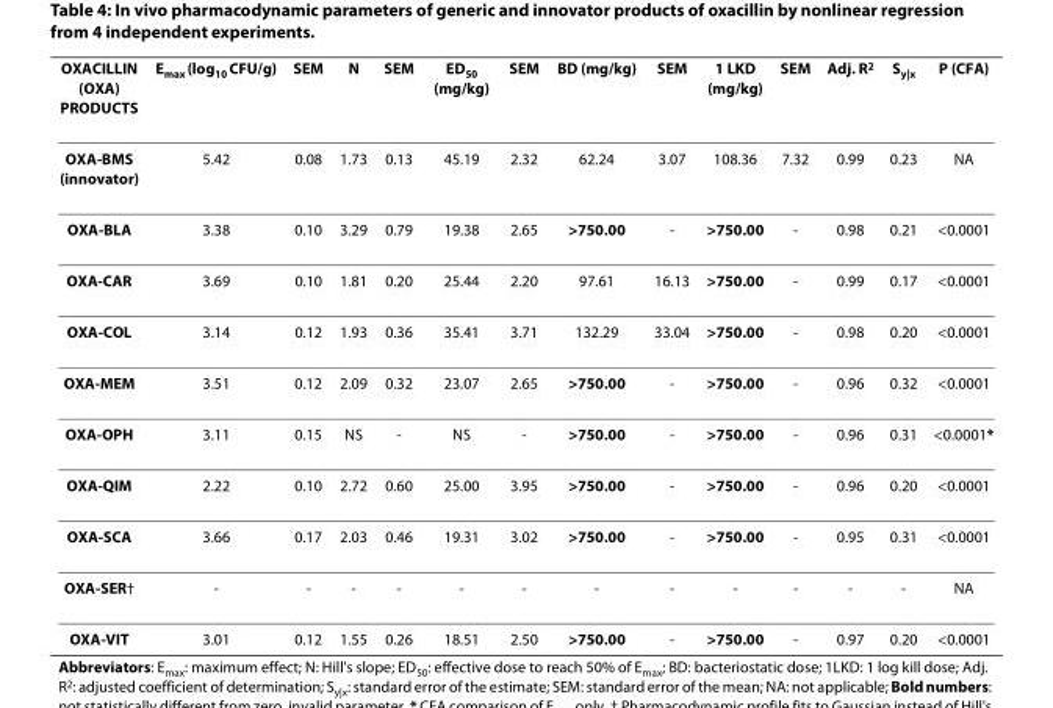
<table><thead><tr><td>OXACILLIN (OXA) PRODUCTS</td><td>E<sub>max</sub> (log<sub>10</sub> CFU/g)</td><td>SEM</td><td>N</td><td>SEM</td><td>ED<sub>50</sub> (mg/kg)</td><td>SEM</td><td>BD (mg/kg)</td><td>SEM</td><td>1 LKD (mg/kg)</td><td>SEM</td><td>Adj. R<sup>2</sup></td><td>S<sub>y|x</sub></td><td>P (CFA)</td></tr></thead><tbody><tr><td>OXA-BMS (innovator)</td><td>5.42</td><td>0.08</td><td>1.73</td><td>0.13</td><td>45.19</td><td>2.32</td><td>62.24</td><td>3.07</td><td>108.36</td><td>7.32</td><td>0.99</td><td>0.23</td><td>NA</td></tr><tr><td>OXA-BLA</td><td>3.38</td><td>0.10</td><td>3.29</td><td>0.79</td><td>19.38</td><td>2.65</td><td>&gt;750.00</td><td>-</td><td>&gt;750.00</td><td>-</td><td>0.98</td><td>0.21</td><td>&lt;0.0001</td></tr><tr><td>OXA-CAR</td><td>3.69</td><td>0.10</td><td>1.81</td><td>0.20</td><td>25.44</td><td>2.20</td><td>97.61</td><td>16.13</td><td>&gt;750.00</td><td>-</td><td>0.99</td><td>0.17</td><td>&lt;0.0001</td></tr><tr><td>OXA-COL</td><td>3.14</td><td>0.12</td><td>1.93</td><td>0.36</td><td>35.41</td><td>3.71</td><td>132.29</td><td>33.04</td><td>&gt;750.00</td><td>-</td><td>0.98</td><td>0.20</td><td>&lt;0.0001</td></tr><tr><td>OXA-MEM</td><td>3.51</td><td>0.12</td><td>2.09</td><td>0.32</td><td>23.07</td><td>2.65</td><td>&gt;750.00</td><td>-</td><td>&gt;750.00</td><td>-</td><td>0.96</td><td>0.32</td><td>&lt;0.0001</td></tr><tr><td>OXA-OPH</td><td>3.11</td><td>0.15</td><td>NS</td><td>-</td><td>NS</td><td>-</td><td>&gt;750.00</td><td>-</td><td>&gt;750.00</td><td>-</td><td>0.96</td><td>0.31</td><td>&lt;0.0001*</td></tr><tr><td>OXA-QIM</td><td>2.22</td><td>0.10</td><td>2.72</td><td>0.60</td><td>25.00</td><td>3.95</td><td>&gt;750.00</td><td>-</td><td>&gt;750.00</td><td>-</td><td>0.96</td><td>0.20</td><td>&lt;0.0001</td></tr><tr><td>OXA-SCA</td><td>3.66</td><td>0.17</td><td>2.03</td><td>0.46</td><td>19.31</td><td>3.02</td><td>&gt;750.00</td><td>-</td><td>&gt;750.00</td><td>-</td><td>0.95</td><td>0.31</td><td>&lt;0.0001</td></tr><tr><td>OXA-SER†</td><td>-</td><td>-</td><td>-</td><td>-</td><td>-</td><td>-</td><td>-</td><td>-</td><td>-</td><td>-</td><td>-</td><td>-</td><td>NA</td></tr><tr><td>OXA-VIT</td><td>3.01</td><td>0.12</td><td>1.55</td><td>0.26</td><td>18.51</td><td>2.50</td><td>&gt;750.00</td><td>-</td><td>&gt;750.00</td><td>-</td><td>0.97</td><td>0.20</td><td>&lt;0.0001</td></tr></tbody></table>